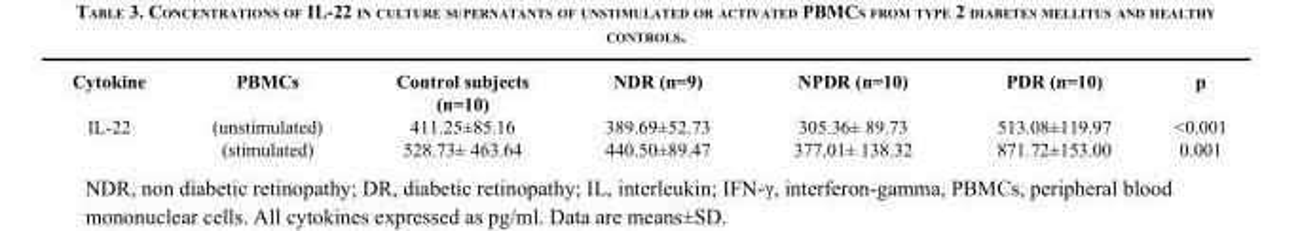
<table><thead><tr><td>Cytokine</td><td>PBMCs</td><td>Control subjects (n=10)</td><td>NDR (n=9)</td><td>NPDR (n=10)</td><td>PDR (n=10)</td><td>p</td></tr></thead><tbody><tr><td rowspan="2">IL-22</td><td>(unstimulated)</td><td>411.25±85.16</td><td>389.69±52.73</td><td>305.36± 89.73</td><td>513.08±119.97</td><td>&lt;0.001</td></tr><tr><td>(stimulated)</td><td>528.73± 463.64</td><td>440.50±89.47</td><td>377.01± 138.32</td><td>871.72±153.00</td><td>0.001</td></tr></tbody></table>